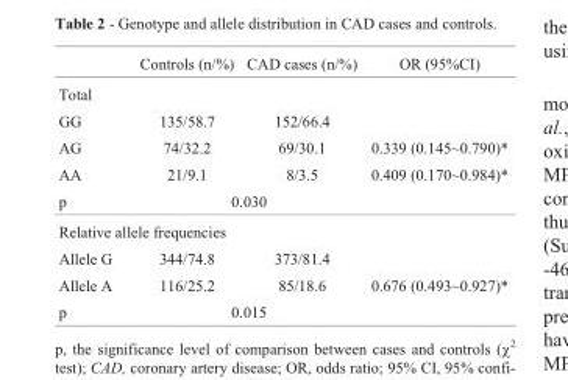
<table><thead><tr><td></td><td>Controls (n/%)</td><td>CAD cases (n/%)</td><td>OR (95%CI)</td></tr></thead><tbody><tr><td colspan="4">Total</td></tr><tr><td>GG</td><td>135/58.7</td><td>152/66.4</td><td></td></tr><tr><td>AG</td><td>74/32.2</td><td>69/30.1</td><td>0.339 (0.145~0.790)*</td></tr><tr><td>AA</td><td>21/9.1</td><td>8/3.5</td><td>0.409 (0.170~0.984)*</td></tr><tr><td>p</td><td colspan="2">0.030</td><td></td></tr><tr><td colspan="4">Relative allele frequencies</td></tr><tr><td>Allele G</td><td>344/74.8</td><td>373/81.4</td><td></td></tr><tr><td>Allele A</td><td>116/25.2</td><td>85/18.6</td><td>0.676 (0.493~0.927)*</td></tr><tr><td>p</td><td colspan="2">0.015</td><td></td></tr></tbody></table>